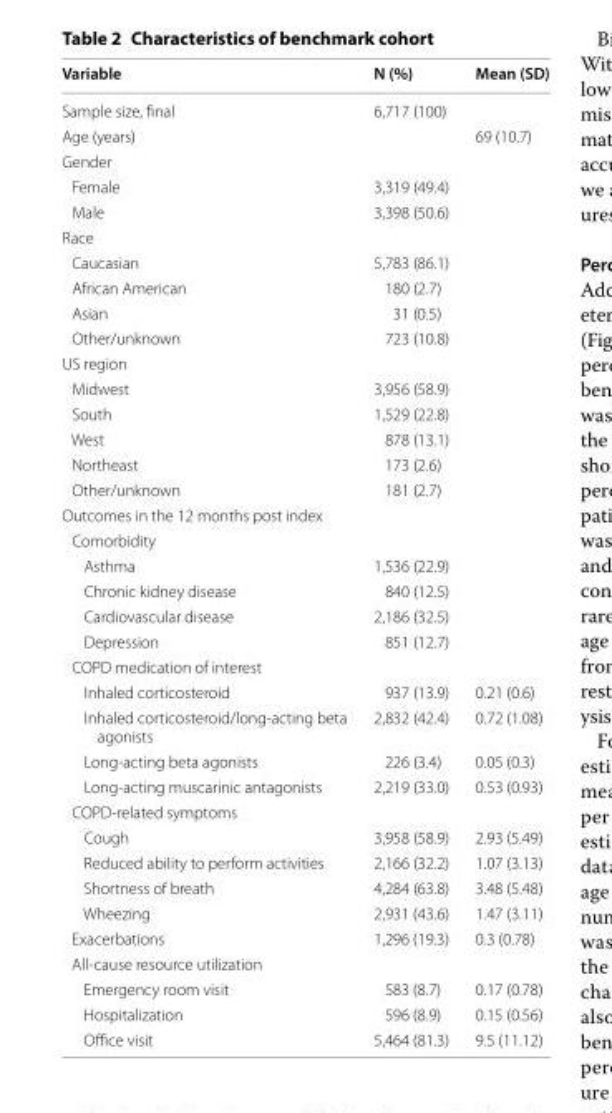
<table><thead><tr><td>Variable</td><td>N (%)</td><td>Mean (SD)</td></tr></thead><tbody><tr><td>Sample size, final</td><td>6,717 (100)</td><td></td></tr><tr><td>Age (years)</td><td></td><td>69 (10.7)</td></tr><tr><td colspan="3">Gender</td></tr><tr><td>Female</td><td>3,319 (49.4)</td><td></td></tr><tr><td>Male</td><td>3,398 (50.6)</td><td></td></tr><tr><td colspan="3">Race</td></tr><tr><td>Caucasian</td><td>5,783 (86.1)</td><td></td></tr><tr><td>African American</td><td>180 (2.7)</td><td></td></tr><tr><td>Asian</td><td>31 (0.5)</td><td></td></tr><tr><td>Other/unknown</td><td>723 (10.8)</td><td></td></tr><tr><td colspan="3">US region</td></tr><tr><td>Midwest</td><td>3,956 (58.9)</td><td></td></tr><tr><td>South</td><td>1,529 (22.8)</td><td></td></tr><tr><td>West</td><td>878 (13.1)</td><td></td></tr><tr><td>Northeast</td><td>173 (2.6)</td><td></td></tr><tr><td>Other/unknown</td><td>181 (2.7)</td><td></td></tr><tr><td colspan="3">Outcomes in the 12 months post index</td></tr><tr><td colspan="3">Comorbidity</td></tr><tr><td>Asthma</td><td>1,536 (22.9)</td><td></td></tr><tr><td>Chronic kidney disease</td><td>840 (12.5)</td><td></td></tr><tr><td>Cardiovascular disease</td><td>2,186 (32.5)</td><td></td></tr><tr><td>Depression</td><td>851 (12.7)</td><td></td></tr><tr><td colspan="3">COPD medication of interest</td></tr><tr><td>Inhaled corticosteroid</td><td>937 (13.9)</td><td>0.21 (0.6)</td></tr><tr><td>Inhaled corticosteroid/long‑acting beta agonists</td><td>2,832 (42.4)</td><td>0.72 (1.08)</td></tr><tr><td>Long‑acting beta agonists</td><td>226 (3.4)</td><td>0.05 (0.3)</td></tr><tr><td>Long‑acting muscarinic antagonists</td><td>2,219 (33.0)</td><td>0.53 (0.93)</td></tr><tr><td colspan="3">COPD‑related symptoms</td></tr><tr><td>Cough</td><td>3,958 (58.9)</td><td>2.93 (5.49)</td></tr><tr><td>Reduced ability to perform activities</td><td>2,166 (32.2)</td><td>1.07 (3.13)</td></tr><tr><td>Shortness of breath</td><td>4,284 (63.8)</td><td>3.48 (5.48)</td></tr><tr><td>Wheezing</td><td>2,931 (43.6)</td><td>1.47 (3.11)</td></tr><tr><td>Exacerbations</td><td>1,296 (19.3)</td><td>0.3 (0.78)</td></tr><tr><td colspan="3">All‑cause resource utilization</td></tr><tr><td>Emergency room visit</td><td>583 (8.7)</td><td>0.17 (0.78)</td></tr><tr><td>Hospitalization</td><td>596 (8.9)</td><td>0.15 (0.56)</td></tr><tr><td>Office visit</td><td>5,464 (81.3)</td><td>9.5 (11.12)</td></tr></tbody></table>